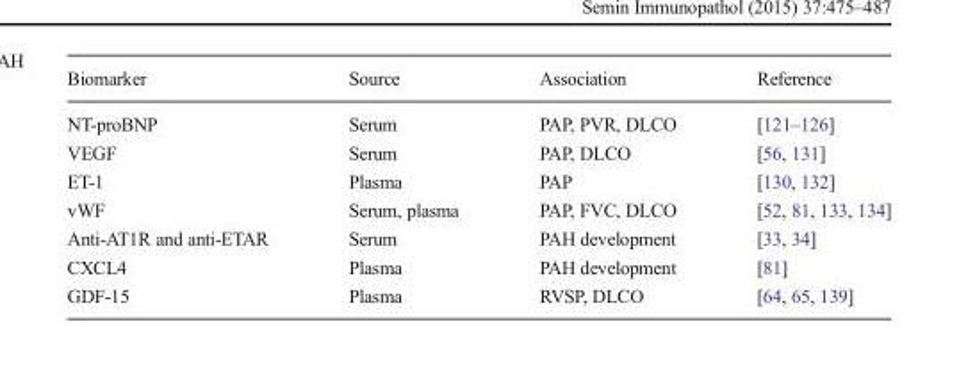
<table><thead><tr><td>Biomarker</td><td>Source</td><td>Association</td><td>Reference</td></tr></thead><tbody><tr><td>NT-proBNP</td><td>Serum</td><td>PAP, PVR, DLCO</td><td>[121–126]</td></tr><tr><td>VEGF</td><td>Serum</td><td>PAP, DLCO</td><td>[56, 131]</td></tr><tr><td>ET-1</td><td>Plasma</td><td>PAP</td><td>[130, 132]</td></tr><tr><td>vWF</td><td>Serum, plasma</td><td>PAP, FVC, DLCO</td><td>[52, 81, 133, 134]</td></tr><tr><td>Anti-AT1R and anti-ETAR</td><td>Serum</td><td>PAH development</td><td>[33, 34]</td></tr><tr><td>CXCL4</td><td>Plasma</td><td>PAH development</td><td>[81]</td></tr><tr><td>GDF-15</td><td>Plasma</td><td>RVSP, DLCO</td><td>[64, 65, 139]</td></tr></tbody></table>